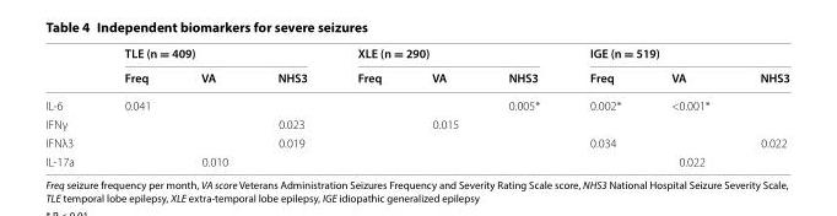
<table><thead><tr><td rowspan="2"></td><td colspan="3">TLE (n = 409)</td><td colspan="3">XLE (n = 290)</td><td colspan="3">IGE (n = 519)</td></tr><tr><td>Freq</td><td>VA</td><td>NHS3</td><td>Freq</td><td>VA</td><td>NHS3</td><td>Freq</td><td>VA</td><td>NHS3</td></tr></thead><tbody><tr><td>IL-6</td><td>0.041</td><td></td><td></td><td></td><td></td><td>0.005*</td><td>0.002*</td><td>&lt;0.001*</td><td></td></tr><tr><td>IFNγ</td><td></td><td></td><td>0.023</td><td></td><td>0.015</td><td></td><td></td><td></td><td></td></tr><tr><td>IFNλ3</td><td></td><td></td><td>0.019</td><td></td><td></td><td></td><td>0.034</td><td></td><td>0.022</td></tr><tr><td>IL-17a</td><td></td><td>0.010</td><td></td><td></td><td></td><td></td><td></td><td>0.022</td><td></td></tr></tbody></table>